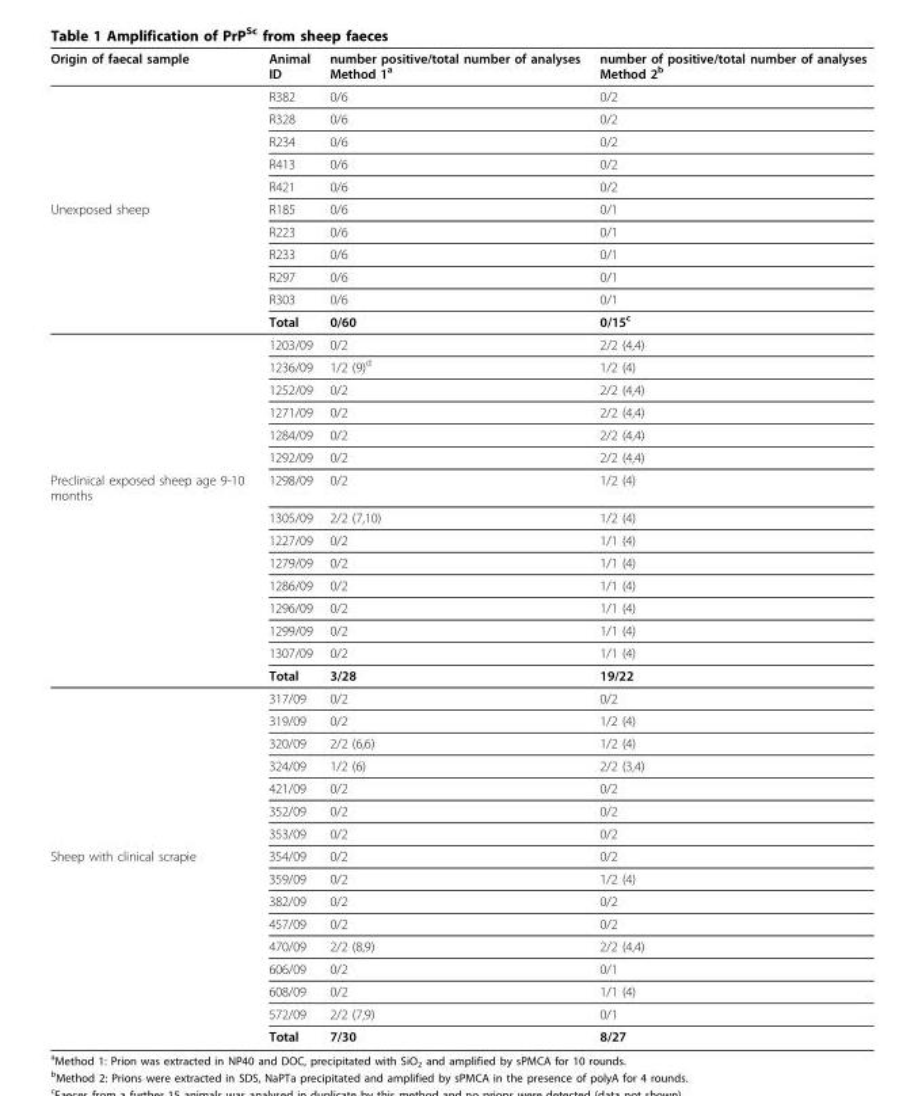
<table><thead><tr><td>Origin of faecal sample</td><td>Animal ID</td><td>number positive/total number of analyses Method 1<sup>a</sup></td><td>number of positive/total number of analyses Method 2<sup>b</sup></td></tr></thead><tbody><tr><td></td><td>R382</td><td>0/6</td><td>0/2</td></tr><tr><td></td><td>R328</td><td>0/6</td><td>0/2</td></tr><tr><td></td><td>R234</td><td>0/6</td><td>0/2</td></tr><tr><td></td><td>R413</td><td>0/6</td><td>0/2</td></tr><tr><td></td><td>R421</td><td>0/6</td><td>0/2</td></tr><tr><td rowspan="12">Unexposed sheep</td><td>R185</td><td>0/6</td><td>0/1</td></tr><tr><td>R223</td><td>0/6</td><td>0/1</td></tr><tr><td>R233</td><td>0/6</td><td>0/1</td></tr><tr><td>R297</td><td>0/6</td><td>0/1</td></tr><tr><td>R303</td><td>0/6</td><td>0/1</td></tr><tr><td>Total</td><td>0/60</td><td>0/15<sup>c</sup></td></tr><tr><td>1203/09</td><td>0/2</td><td>2/2 (4,4)</td></tr><tr><td>1236/09</td><td>1/2 (9)<sup>d</sup></td><td>1/2 (4)</td></tr><tr><td>1252/09</td><td>0/2</td><td>2/2 (4,4)</td></tr><tr><td>1271/09</td><td>0/2</td><td>2/2 (4,4)</td></tr><tr><td>1284/09</td><td>0/2</td><td>2/2 (4,4)</td></tr><tr><td>1292/09</td><td>0/2</td><td>2/2 (4,4)</td></tr><tr><td rowspan="16">Preclinical exposed sheep age 9-10 months</td><td>1298/09</td><td>0/2</td><td>1/2 (4)</td></tr><tr><td>1305/09</td><td>2/2 (7,10)</td><td>1/2 (4)</td></tr><tr><td>1227/09</td><td>0/2</td><td>1/1 (4)</td></tr><tr><td>1279/09</td><td>0/2</td><td>1/1 (4)</td></tr><tr><td>1286/09</td><td>0/2</td><td>1/1 (4)</td></tr><tr><td>1296/09</td><td>0/2</td><td>1/1 (4)</td></tr><tr><td>1299/09</td><td>0/2</td><td>1/1 (4)</td></tr><tr><td>1307/09</td><td>0/2</td><td>1/1 (4)</td></tr><tr><td>Total</td><td>3/28</td><td>19/22</td></tr><tr><td>317/09</td><td>0/2</td><td>0/2</td></tr><tr><td>319/09</td><td>0/2</td><td>1/2 (4)</td></tr><tr><td>320/09</td><td>2/2 (6,6)</td><td>1/2 (4)</td></tr><tr><td>324/09</td><td>1/2 (6)</td><td>2/2 (3,4)</td></tr><tr><td>421/09</td><td>0/2</td><td>0/2</td></tr><tr><td>352/09</td><td>0/2</td><td>0/2</td></tr><tr><td>353/09</td><td>0/2</td><td>0/2</td></tr><tr><td rowspan="9">Sheep with clinical scrapie</td><td>354/09</td><td>0/2</td><td>0/2</td></tr><tr><td>359/09</td><td>0/2</td><td>1/2 (4)</td></tr><tr><td>382/09</td><td>0/2</td><td>0/2</td></tr><tr><td>457/09</td><td>0/2</td><td>0/2</td></tr><tr><td>470/09</td><td>2/2 (8,9)</td><td>2/2 (4,4)</td></tr><tr><td>606/09</td><td>0/2</td><td>0/1</td></tr><tr><td>608/09</td><td>0/2</td><td>1/1 (4)</td></tr><tr><td>572/09</td><td>2/2 (7,9)</td><td>0/1</td></tr><tr><td>Total</td><td>7/30</td><td>8/27</td></tr></tbody></table>